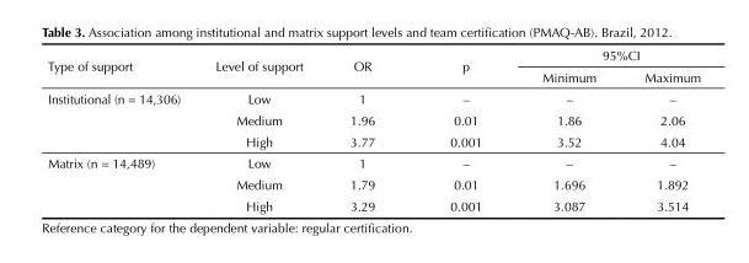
<table><thead><tr><td rowspan="2">Type of support</td><td rowspan="2">Level of support</td><td rowspan="2">OR</td><td rowspan="2">p</td><td colspan="2">95%CI</td></tr><tr><td>Minimum</td><td>Maximum</td></tr></thead><tbody><tr><td rowspan="3">Institutional (n = 14,306)</td><td>Low</td><td>1</td><td>–</td><td>–</td><td>–</td></tr><tr><td>Medium</td><td>1.96</td><td>0.01</td><td>1.86</td><td>2.06</td></tr><tr><td>High</td><td>3.77</td><td>0.001</td><td>3.52</td><td>4.04</td></tr><tr><td rowspan="3">Matrix (n = 14,489)</td><td>Low</td><td>1</td><td>–</td><td>–</td><td>–</td></tr><tr><td>Medium</td><td>1.79</td><td>0.01</td><td>1.696</td><td>1.892</td></tr><tr><td>High</td><td>3.29</td><td>0.001</td><td>3.087</td><td>3.514</td></tr></tbody></table>